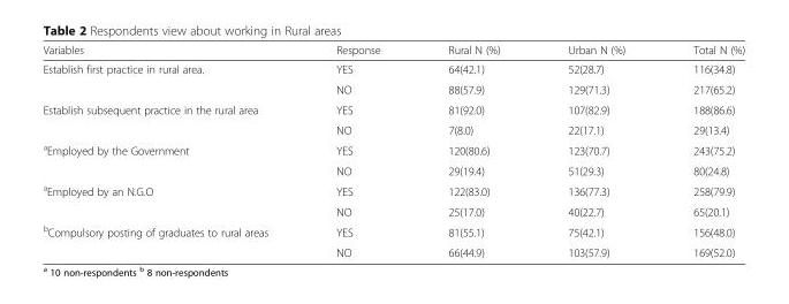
<table><thead><tr><td>Variables</td><td>Response</td><td>Rural N (%)</td><td>Urban N (%)</td><td>Total N (%)</td></tr></thead><tbody><tr><td rowspan="2">Establish first practice in rural area.</td><td>YES</td><td>64(42.1)</td><td>52(28.7)</td><td>116(34.8)</td></tr><tr><td>NO</td><td>88(57.9)</td><td>129(71.3)</td><td>217(65.2)</td></tr><tr><td rowspan="2">Establish subsequent practice in the rural area</td><td>YES</td><td>81(92.0)</td><td>107(82.9)</td><td>188(86.6)</td></tr><tr><td>NO</td><td>7(8.0)</td><td>22(17.1)</td><td>29(13.4)</td></tr><tr><td rowspan="2"><sup>a</sup>Employed by the Government</td><td>YES</td><td>120(80.6)</td><td>123(70.7)</td><td>243(75.2)</td></tr><tr><td>NO</td><td>29(19.4)</td><td>51(29.3)</td><td>80(24.8)</td></tr><tr><td rowspan="2"><sup>a</sup>Employed by an N.G.O</td><td>YES</td><td>122(83.0)</td><td>136(77.3)</td><td>258(79.9)</td></tr><tr><td>NO</td><td>25(17.0)</td><td>40(22.7)</td><td>65(20.1)</td></tr><tr><td rowspan="2"><sup>b</sup>Compulsory posting of graduates to rural areas</td><td>YES</td><td>81(55.1)</td><td>75(42.1)</td><td>156(48.0)</td></tr><tr><td>NO</td><td>66(44.9)</td><td>103(57.9)</td><td>169(52.0)</td></tr></tbody></table>